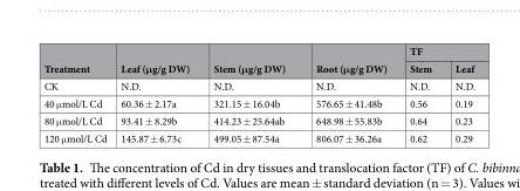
<table><thead><tr><td rowspan="2">Treatment</td><td rowspan="2">Leaf (μg/g DW)</td><td rowspan="2">Stem (μg/g DW)</td><td rowspan="2">Root (μg/g DW)</td><td colspan="2">TF</td></tr><tr><td>Stem</td><td>Leaf</td></tr></thead><tbody><tr><td>CK</td><td>N.D.</td><td>N.D.</td><td>N.D.</td><td>N.D.</td><td>N.D.</td></tr><tr><td>40 μmol/L Cd</td><td>60.36 ± 2.17a</td><td>321.15 ± 16.04b</td><td>576.65 ± 41.48b</td><td>0.56</td><td>0.19</td></tr><tr><td>80 μmol/L Cd</td><td>93.41 ± 8.29b</td><td>414.23 ± 25.64ab</td><td>648.98 ± 55.83b</td><td>0.64</td><td>0.23</td></tr><tr><td>120 μmol/L Cd</td><td>145.87 ± 6.73c</td><td>499.05 ± 87.54a</td><td>806.07 ± 36.26a</td><td>0.62</td><td>0.29</td></tr></tbody></table>